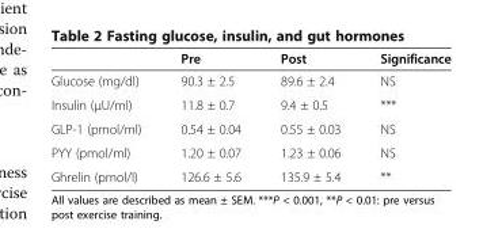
<table><thead><tr><td></td><td>Pre</td><td>Post</td><td>Significance</td></tr></thead><tbody><tr><td>Glucose (mg/dl)</td><td>90.3 ± 2.5</td><td>89.6 ± 2.4</td><td>NS</td></tr><tr><td>Insulin (μU/ml)</td><td>11.8 ± 0.7</td><td>9.4 ± 0.5</td><td>***</td></tr><tr><td>GLP-1 (pmol/ml)</td><td>0.54 ± 0.04</td><td>0.55 ± 0.03</td><td>NS</td></tr><tr><td>PYY (pmol/ml)</td><td>1.20 ± 0.07</td><td>1.23 ± 0.06</td><td>NS</td></tr><tr><td>Ghrelin (pmol/l)</td><td>126.6 ± 5.6</td><td>135.9 ± 5.4</td><td>**</td></tr></tbody></table>